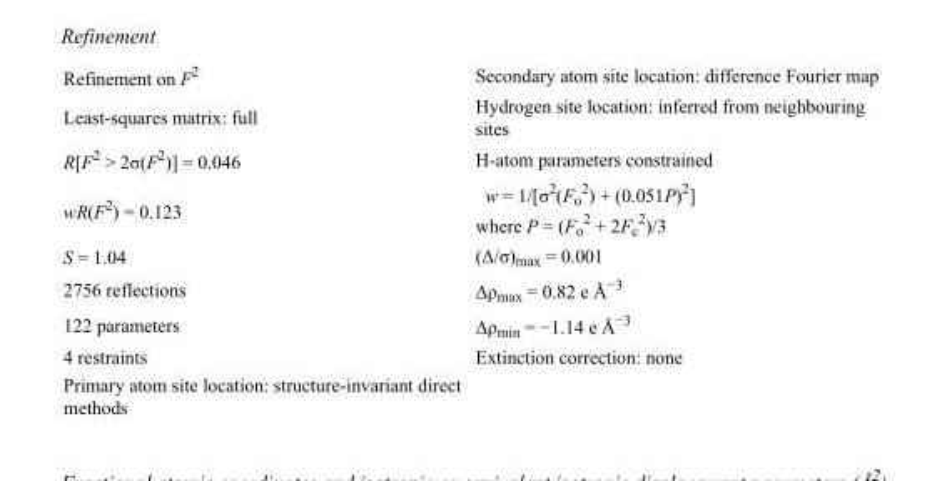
<table><tbody><tr><td>Refinement on F<sup>2</sup></td><td>Secondary atom site location: difference Fourier map</td></tr><tr><td>Least-squares matrix: full</td><td>Hydrogen site location: inferred from neighbouring sites</td></tr><tr><td>R[F<sup>2</sup> &gt; 2σ(F<sup>2</sup>)] = 0.046</td><td>H-atom parameters constrained</td></tr><tr><td>wR(F<sup>2</sup>) = 0.123</td><td>w = 1/[σ<sup>2</sup>(F<sub>o</sub> <sup>2</sup>) + (0.051P)<sup>2</sup>] where P = (F<sub>o</sub> <sup>2</sup> + 2F<sub>c</sub> <sup>2</sup>)/3</td></tr><tr><td>S = 1.04</td><td>(Δ/σ)<sub>max</sub> = 0.001</td></tr><tr><td>2756 reflections</td><td>Δρ<sub>max</sub> = 0.82 e Å<sup>−3</sup></td></tr><tr><td>122 parameters</td><td>Δρ<sub>min</sub> = −1.14 e Å<sup>−3</sup></td></tr><tr><td>4 restraints</td><td>Extinction correction: none</td></tr><tr><td>Primary atom site location: structure-invariant direct methods</td><td></td></tr></tbody></table>